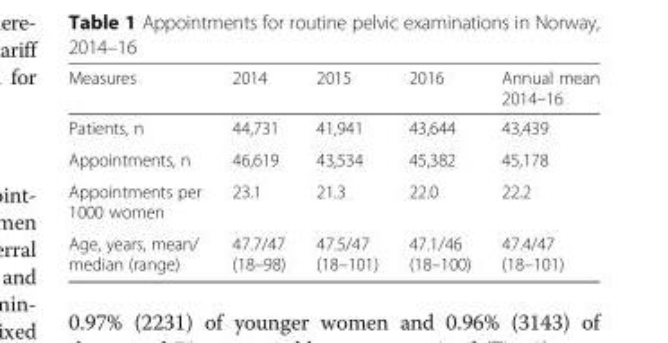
<table><thead><tr><td>Measures</td><td>2014</td><td>2015</td><td>2016</td><td>Annual mean 2014–16</td></tr></thead><tbody><tr><td>Patients, n</td><td>44,731</td><td>41,941</td><td>43,644</td><td>43,439</td></tr><tr><td>Appointments, n</td><td>46,619</td><td>43,534</td><td>45,382</td><td>45,178</td></tr><tr><td>Appointments per 1000 women</td><td>23.1</td><td>21.3</td><td>22.0</td><td>22.2</td></tr><tr><td>Age, years, mean/ median (range)</td><td>47.7/47 (18–98)</td><td>47.5/47 (18–101)</td><td>47.1/46 (18–100)</td><td>47.4/47 (18–101)</td></tr></tbody></table>